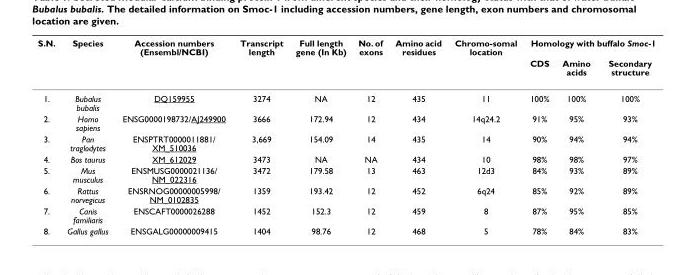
<table><thead><tr><td rowspan="2">S.N.</td><td rowspan="2">Species</td><td rowspan="2">Accession numbers (Ensembl/NCBI)</td><td rowspan="2">Transcript length</td><td rowspan="2">Full length gene (In Kb)</td><td rowspan="2">No. of exons</td><td rowspan="2">Amino acid residues</td><td rowspan="2">Chromo-somal location</td><td colspan="3">Homology with buffalo Smoc-1</td></tr><tr><td>CDS</td><td>Amino acids</td><td>Secondary structure</td></tr></thead><tbody><tr><td>1.</td><td>Bubalus bubalis</td><td>DQ159955</td><td>3274</td><td>NA</td><td>12</td><td>435</td><td>11</td><td>100%</td><td>100%</td><td>100%</td></tr><tr><td>2.</td><td>Homo sapiens</td><td>ENSG0000198732/AJ249900</td><td>3666</td><td>172.94</td><td>12</td><td>434</td><td>14q24.2</td><td>91%</td><td>95%</td><td>93%</td></tr><tr><td>3.</td><td>Pan traglodytes</td><td>ENSPTRT0000011881/ XM_510036</td><td>3,669</td><td>154.09</td><td>14</td><td>435</td><td>14</td><td>90%</td><td>94%</td><td>94%</td></tr><tr><td>4.</td><td>Bos taurus</td><td>XM_612029</td><td>3473</td><td>NA</td><td>NA</td><td>434</td><td>10</td><td>98%</td><td>98%</td><td>97%</td></tr><tr><td>5.</td><td>Mus musculus</td><td>ENSMUSG0000021136/ NM_022316</td><td>3472</td><td>179.58</td><td>13</td><td>463</td><td>12d3</td><td>84%</td><td>93%</td><td>89%</td></tr><tr><td>6.</td><td>Rattus norvegicus</td><td>ENSRNOG00000005998/ NM_0102835</td><td>1359</td><td>193.42</td><td>12</td><td>452</td><td>6q24</td><td>85%</td><td>92%</td><td>89%</td></tr><tr><td>7.</td><td>Canis familiaris</td><td>ENSCAFT0000026288</td><td>1452</td><td>152.3</td><td>12</td><td>459</td><td>8</td><td>87%</td><td>95%</td><td>85%</td></tr><tr><td>8.</td><td>Gallus gallus</td><td>ENSGALG00000009415</td><td>1404</td><td>98.76</td><td>12</td><td>468</td><td>5</td><td>78%</td><td>84%</td><td>83%</td></tr></tbody></table>